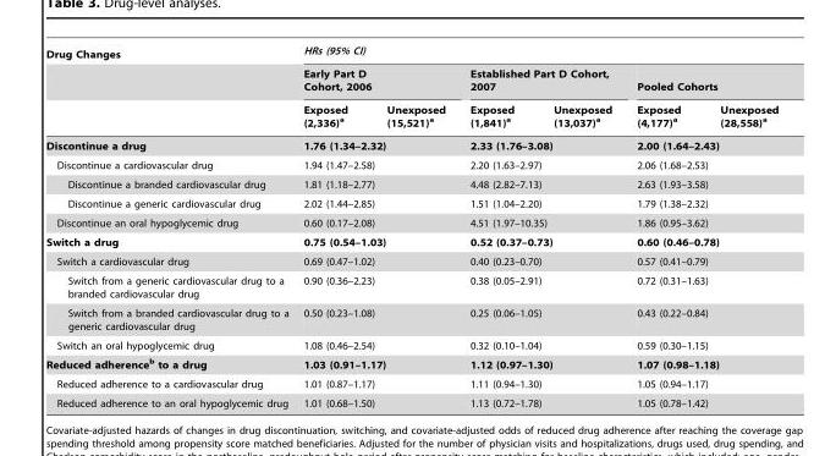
<table><thead><tr><td rowspan="3">Drug Changes</td><td colspan="6">HRs (95% CI)</td></tr><tr><td colspan="2">Early Part D Cohort, 2006</td><td colspan="2">Established Part D Cohort, 2007</td><td colspan="2">Pooled Cohorts</td></tr><tr><td>Exposed (2,336)<sup>a</sup></td><td>Unexposed (15,521)<sup>a</sup></td><td>Exposed (1,841)<sup>a</sup></td><td>Unexposed (13,037)<sup>a</sup></td><td>Exposed (4,177)<sup>a</sup></td><td>Unexposed (28,558)<sup>a</sup></td></tr></thead><tbody><tr><td>Discontinue a drug</td><td colspan="2">1.76 (1.34–2.32)</td><td colspan="2">2.33 (1.76–3.08)</td><td colspan="2">2.00 (1.64–2.43)</td></tr><tr><td>Discontinue a cardiovascular drug</td><td colspan="2">1.94 (1.47–2.58)</td><td colspan="2">2.20 (1.63–2.97)</td><td colspan="2">2.06 (1.68–2.53)</td></tr><tr><td>Discontinue a branded cardiovascular drug</td><td colspan="2">1.81 (1.18–2.77)</td><td colspan="2">4.48 (2.82–7.13)</td><td colspan="2">2.63 (1.93–3.58)</td></tr><tr><td>Discontinue a generic cardiovascular drug</td><td colspan="2">2.02 (1.44–2.85)</td><td colspan="2">1.51 (1.04–2.20)</td><td colspan="2">1.79 (1.38–2.32)</td></tr><tr><td>Discontinue an oral hypoglycemic drug</td><td colspan="2">0.60 (0.17–2.08)</td><td colspan="2">4.51 (1.97–10.35)</td><td colspan="2">1.86 (0.95–3.62)</td></tr><tr><td>Switch a drug</td><td colspan="2">0.75 (0.54–1.03)</td><td colspan="2">0.52 (0.37–0.73)</td><td colspan="2">0.60 (0.46–0.78)</td></tr><tr><td>Switch a cardiovascular drug</td><td colspan="2">0.69 (0.47–1.02)</td><td colspan="2">0.40 (0.23–0.70)</td><td colspan="2">0.57 (0.41–0.79)</td></tr><tr><td>Switch from a generic cardiovascular drug to a branded cardiovascular drug</td><td colspan="2">0.90 (0.36–2.23)</td><td colspan="2">0.38 (0.05–2.91)</td><td colspan="2">0.72 (0.31–1.63)</td></tr><tr><td>Switch from a branded cardiovascular drug to a generic cardiovascular drug</td><td colspan="2">0.50 (0.23–1.08)</td><td colspan="2">0.25 (0.06–1.05)</td><td colspan="2">0.43 (0.22–0.84)</td></tr><tr><td>Switch an oral hypoglycemic drug</td><td colspan="2">1.08 (0.46–2.54)</td><td colspan="2">0.32 (0.10–1.04)</td><td colspan="2">0.59 (0.30–1.15)</td></tr><tr><td>Reduced adherenceb to a drug</td><td colspan="2">1.03 (0.91–1.17)</td><td colspan="2">1.12 (0.97–1.30)</td><td colspan="2">1.07 (0.98–1.18)</td></tr><tr><td>Reduced adherence to a cardiovascular drug</td><td colspan="2">1.01 (0.87–1.17)</td><td colspan="2">1.11 (0.94–1.30)</td><td colspan="2">1.05 (0.94–1.17)</td></tr><tr><td>Reduced adherence to an oral hypoglycemic drug</td><td colspan="2">1.01 (0.68–1.50)</td><td colspan="2">1.13 (0.72–1.78)</td><td colspan="2">1.05 (0.78–1.42)</td></tr></tbody></table>